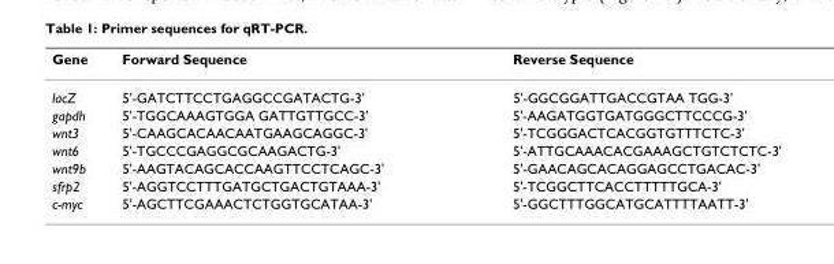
<table><thead><tr><td>Gene</td><td>Forward Sequence</td><td>Reverse Sequence</td></tr></thead><tbody><tr><td>lacZ</td><td>5&#x27;-GATCTTCCTGAGGCCGATACTG-3&#x27;</td><td>5&#x27;-GGCGGATTGACCGTAA TGG-3&#x27;</td></tr><tr><td>gapdh</td><td>5&#x27;-TGGCAAAGTGGA GATTGTTGCC-3&#x27;</td><td>5&#x27;-AAGATGGTGATGGGCTTCCCG-3&#x27;</td></tr><tr><td>wnt3</td><td>5&#x27;-CAAGCACAACAATGAAGCAGGC-3&#x27;</td><td>5&#x27;-TCGGGACTCACGGTGTTTCTC-3&#x27;</td></tr><tr><td>wnt6</td><td>5&#x27;-TGCCCGAGGCGCAAGACTG-3&#x27;</td><td>5&#x27;-ATTGCAAACACGAAAGCTGTCTCTC-3&#x27;</td></tr><tr><td>wnt9b</td><td>5&#x27;-AAGTACAGCACCAAGTTCCTCAGC-3&#x27;</td><td>5&#x27;-GAACAGCACAGGAGCCTGACAC-3&#x27;</td></tr><tr><td>sfrp2</td><td>5&#x27;-AGGTCCTTTGATGCTGACTGTAAA-3&#x27;</td><td>5&#x27;-TCGGCTTCACCTTTTTGCA-3&#x27;</td></tr><tr><td>c-myc</td><td>5&#x27;-AGCTTCGAAACTCTGGTGCATAA-3&#x27;</td><td>5&#x27;-GGCTTTGGCATGCATTTTAATT-3&#x27;</td></tr></tbody></table>